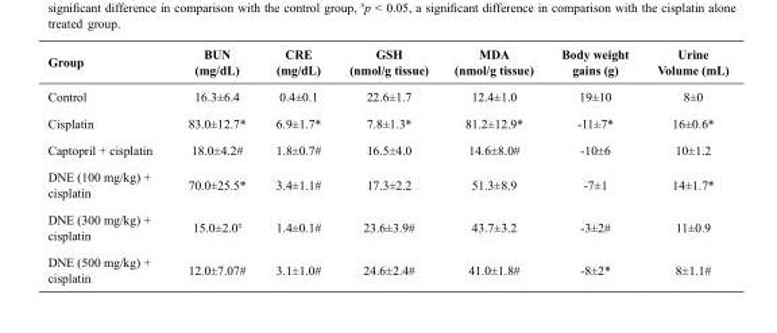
<table><thead><tr><td>Group</td><td>BUN (mg/dL)</td><td>CRE (mg/dL)</td><td>GSH (nmol/g tissue)</td><td>MDA (nmol/g tissue)</td><td>Body weight gains (g)</td><td>Urine Volume (mL)</td></tr></thead><tbody><tr><td>Control</td><td>16.3±6.4</td><td>0.4±0.1</td><td>22.6±1.7</td><td>12.4±1.0</td><td>19±10</td><td>8±0</td></tr><tr><td>Cisplatin</td><td>83.0±12.7*</td><td>6.9±1.7*</td><td>7.8±1.3*</td><td>81.2±12.9*</td><td>-11±7*</td><td>16±0.6*</td></tr><tr><td>Captopril + cisplatin</td><td>18.0±4.2#</td><td>1.8±0.7#</td><td>16.5±4.0</td><td>14.6±8.0#</td><td>-10±6</td><td>10±1.2</td></tr><tr><td>DNE (100 mg/kg) + cisplatin</td><td>70.0±25.5*</td><td>3.4±1.1#</td><td>17.3±2.2</td><td>51.3±8.9</td><td>-7±1</td><td>14±1.7*</td></tr><tr><td>DNE (300 mg/kg) + cisplatin</td><td>15.0±2.0#</td><td>1.4±0.1#</td><td>23.6±3.9#</td><td>43.7±3.2</td><td>-3±2#</td><td>11±0.9</td></tr><tr><td>DNE (500 mg/kg) + cisplatin</td><td>12.0±7.07#</td><td>3.1±1.0#</td><td>24.6±2.4#</td><td>41.0±1.8#</td><td>-8±2*</td><td>8±1.1#</td></tr></tbody></table>